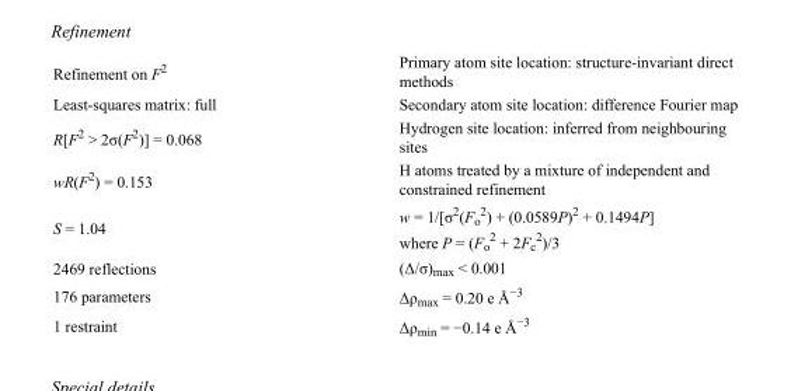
<table><tbody><tr><td>Refinement on F<sup>2</sup></td><td>Primary atom site location: structure-invariant direct methods</td></tr><tr><td>Least-squares matrix: full</td><td>Secondary atom site location: difference Fourier map</td></tr><tr><td>R[F<sup>2</sup> &gt; 2σ(F<sup>2</sup>)] = 0.068</td><td>Hydrogen site location: inferred from neighbouring sites</td></tr><tr><td>wR(F<sup>2</sup>) = 0.153</td><td>H atoms treated by a mixture of independent and constrained refinement</td></tr><tr><td>S = 1.04</td><td>w = 1/[σ<sup>2</sup>(F<sub>o</sub> <sup>2</sup>) + (0.0589P)<sup>2</sup> + 0.1494P] where P = (F<sub>o</sub> <sup>2</sup> + 2F<sub>c</sub> <sup>2</sup>)/3</td></tr><tr><td>2469 reflections</td><td>(Δ/σ)<sub>max</sub> &lt; 0.001</td></tr><tr><td>176 parameters</td><td>Δρ<sub>max</sub> = 0.20 e Å<sup>−3</sup></td></tr><tr><td>1 restraint</td><td>Δρ<sub>min</sub> = −0.14 e Å<sup>−3</sup></td></tr></tbody></table>